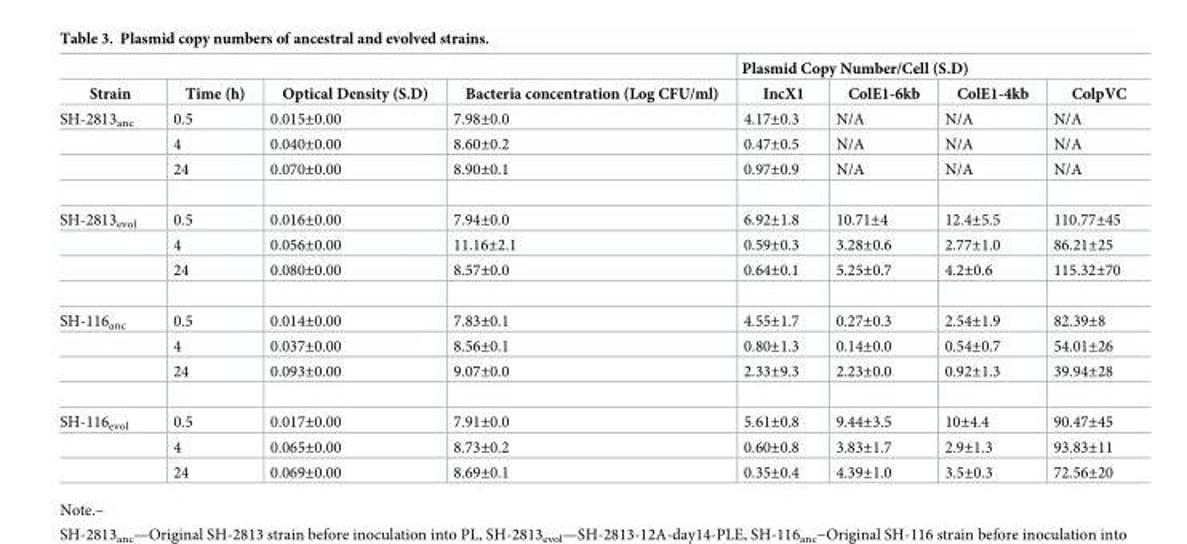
<table><thead><tr><td rowspan="2">Strain</td><td rowspan="2">Time (h)</td><td rowspan="2">Optical Density (S.D)</td><td rowspan="2">Bacteria concentration (Log CFU/ml)</td><td colspan="4">Plasmid Copy Number/Cell (S.D)</td></tr><tr><td>IncX1</td><td>ColE1-6kb</td><td>ColE1-4kb</td><td>ColpVC</td></tr></thead><tbody><tr><td rowspan="3">SH-2813<sub>anc</sub></td><td>0.5</td><td>0.015±0.00</td><td>7.98±0.0</td><td>4.17±0.3</td><td>N/A</td><td>N/A</td><td>N/A</td></tr><tr><td>4</td><td>0.040±0.00</td><td>8.60±0.2</td><td>0.47±0.5</td><td>N/A</td><td>N/A</td><td>N/A</td></tr><tr><td>24</td><td>0.070±0.00</td><td>8.90±0.1</td><td>0.97±0.9</td><td>N/A</td><td>N/A</td><td>N/A</td></tr><tr><td rowspan="3">SH-2813<sub>evol</sub></td><td>0.5</td><td>0.016±0.00</td><td>7.94±0.0</td><td>6.92±1.8</td><td>10.71±4</td><td>12.4±5.5</td><td>110.77±45</td></tr><tr><td>4</td><td>0.056±0.00</td><td>11.16±2.1</td><td>0.59±0.3</td><td>3.28±0.6</td><td>2.77±1.0</td><td>86.21±25</td></tr><tr><td>24</td><td>0.080±0.00</td><td>8.57±0.0</td><td>0.64±0.1</td><td>5.25±0.7</td><td>4.2±0.6</td><td>115.32±70</td></tr><tr><td rowspan="3">SH-116<sub>anc</sub></td><td>0.5</td><td>0.014±0.00</td><td>7.83±0.1</td><td>4.55±1.7</td><td>0.27±0.3</td><td>2.54±1.9</td><td>82.39±8</td></tr><tr><td>4</td><td>0.037±0.00</td><td>8.56±0.1</td><td>0.80±1.3</td><td>0.14±0.0</td><td>0.54±0.7</td><td>54.01±26</td></tr><tr><td>24</td><td>0.093±0.00</td><td>9.07±0.0</td><td>2.33±9.3</td><td>2.23±0.0</td><td>0.92±1.3</td><td>39.94±28</td></tr><tr><td rowspan="3">SH-116<sub>evol</sub></td><td>0.5</td><td>0.017±0.00</td><td>7.91±0.0</td><td>5.61±0.8</td><td>9.44±3.5</td><td>10±4.4</td><td>90.47±45</td></tr><tr><td>4</td><td>0.065±0.00</td><td>8.73±0.2</td><td>0.60±0.8</td><td>3.83±1.7</td><td>2.9±1.3</td><td>93.83±11</td></tr><tr><td>24</td><td>0.069±0.00</td><td>8.69±0.1</td><td>0.35±0.4</td><td>4.39±1.0</td><td>3.5±0.3</td><td>72.56±20</td></tr></tbody></table>